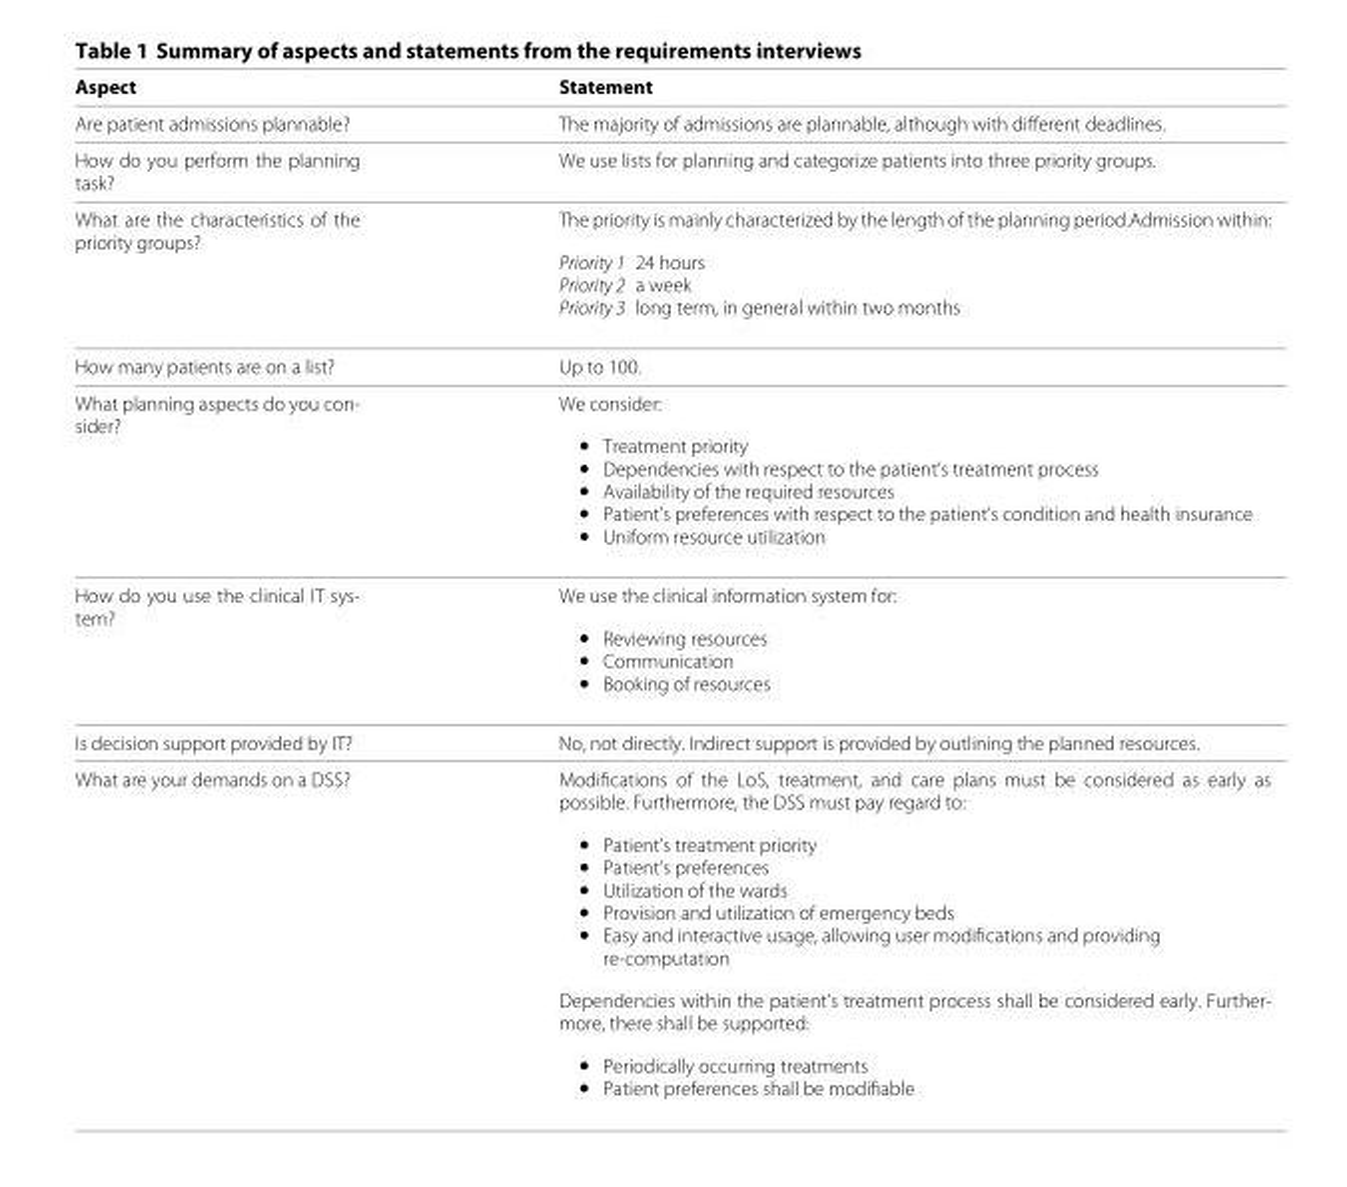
<table><thead><tr><td>Aspect</td><td>Statement</td></tr></thead><tbody><tr><td>Are patient admissions plannable?</td><td>The majority of admissions are plannable, although with different deadlines.</td></tr><tr><td>How do you perform the planning task?</td><td>We use lists for planning and categorize patients into three priority groups.</td></tr><tr><td>What are the characteristics of the priority groups?</td><td>The priority is mainly characterized by the length of the planning period.Admission within: Priority 1 24 hours Priority 2 a week Priority 3 long term, in general within two months</td></tr><tr><td>How many patients are on a list?</td><td>Up to 100.</td></tr><tr><td>What planning aspects do you con- sider?</td><td>We consider: • Treatment priority • Dependencies with respect to the patient’s treatment process • Availability of the required resources • Patient’s preferences with respect to the patient’s condition and health insurance • Uniform resource utilization</td></tr><tr><td>How do you use the clinical IT sys- tem?</td><td>We use the clinical information system for: • Reviewing resources • Communication • Booking of resources</td></tr><tr><td>Is decision support provided by IT?</td><td>No, not directly. Indirect support is provided by outlining the planned resources.</td></tr><tr><td>What are your demands on a DSS?</td><td>Modifications of the LoS, treatment, and care plans must be considered as early as possible. Furthermore, the DSS must pay regard to: • Patient’s treatment priority • Patient’s preferences • Utilization of the wards • Provision and utilization of emergency beds • Easy and interactive usage, allowing user modifications and providing re-computation Dependencies within the patient’s treatment process shall be considered early. Further- more, there shall be supported: • Periodically occurring treatments • Patient preferences shall be modifiable</td></tr></tbody></table>